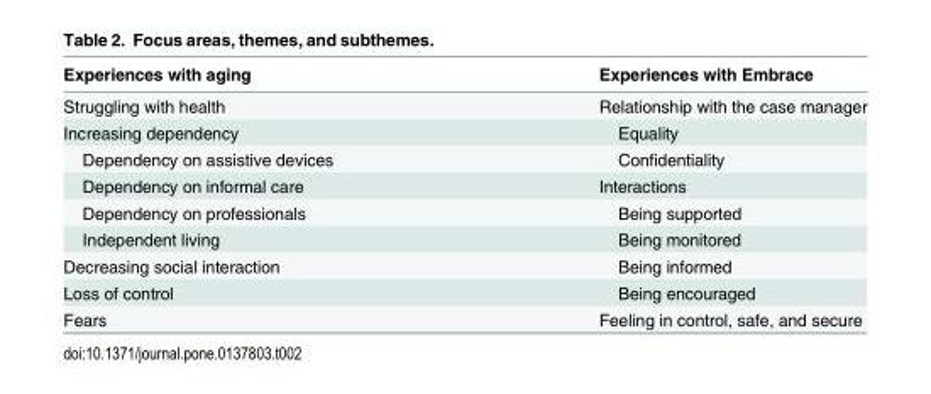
<table><thead><tr><td>Experiences with aging</td><td>Experiences with Embrace</td></tr></thead><tbody><tr><td>Struggling with health</td><td>Relationship with the case manager</td></tr><tr><td>Increasing dependency</td><td>Equality</td></tr><tr><td>Dependency on assistive devices</td><td>Confidentiality</td></tr><tr><td>Dependency on informal care</td><td>Interactions</td></tr><tr><td>Dependency on professionals</td><td>Being supported</td></tr><tr><td>Independent living</td><td>Being monitored</td></tr><tr><td>Decreasing social interaction</td><td>Being informed</td></tr><tr><td>Loss of control</td><td>Being encouraged</td></tr><tr><td>Fears</td><td>Feeling in control, safe, and secure</td></tr></tbody></table>